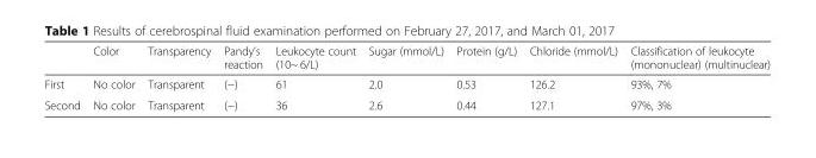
<table><thead><tr><td></td><td>Color</td><td>Transparency</td><td>Pandy’s reaction</td><td>Leukocyte count (10~ 6/L)</td><td>Sugar (mmol/L)</td><td>Protein (g/L)</td><td>Chloride (mmol/L)</td><td>Classification of leukocyte (mononuclear) (multinuclear)</td></tr></thead><tbody><tr><td>First</td><td>No color</td><td>Transparent</td><td>(−)</td><td>61</td><td>2.0</td><td>0.53</td><td>126.2</td><td>93%, 7%</td></tr><tr><td>Second</td><td>No color</td><td>Transparent</td><td>(−)</td><td>36</td><td>2.6</td><td>0.44</td><td>127.1</td><td>97%, 3%</td></tr></tbody></table>